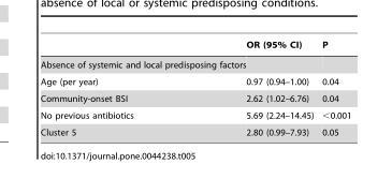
<table><thead><tr><td></td><td>OR (95% CI)</td><td>P</td></tr></thead><tbody><tr><td colspan="3">Absence of systemic and local predisposing factors</td></tr><tr><td>Age (per year)</td><td>0.97 (0.94–1.00)</td><td>0.04</td></tr><tr><td>Community-onset BSI</td><td>2.62 (1.02–6.76)</td><td>0.04</td></tr><tr><td>No previous antibiotics</td><td>5.69 (2.24–14.45)</td><td>&lt;0.001</td></tr><tr><td>Cluster 5</td><td>2.80 (0.99–7.93)</td><td>0.05</td></tr></tbody></table>